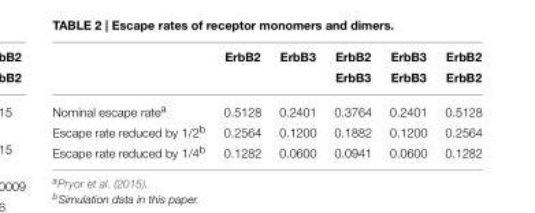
<table><thead><tr><td rowspan="2"></td><td rowspan="2">ErbB2</td><td rowspan="2">ErbB3</td><td rowspan="2">ErbB2 ErbB3</td><td rowspan="2">ErbB3 ErbB3</td><td rowspan="2">ErbB2 ErbB2</td></tr><tr></tr></thead><tbody><tr><td>Nominal escape rate<sup>a</sup></td><td>0.5128</td><td>0.2401</td><td>0.3764</td><td>0.2401</td><td>0.5128</td></tr><tr><td>Escape rate reduced by 1/2<sup>b</sup></td><td>0.2564</td><td>0.1200</td><td>0.1882</td><td>0.1200</td><td>0.2564</td></tr><tr><td>Escape rate reduced by 1/4<sup>b</sup></td><td>0.1282</td><td>0.0600</td><td>0.0941</td><td>0.0600</td><td>0.1282</td></tr></tbody></table>